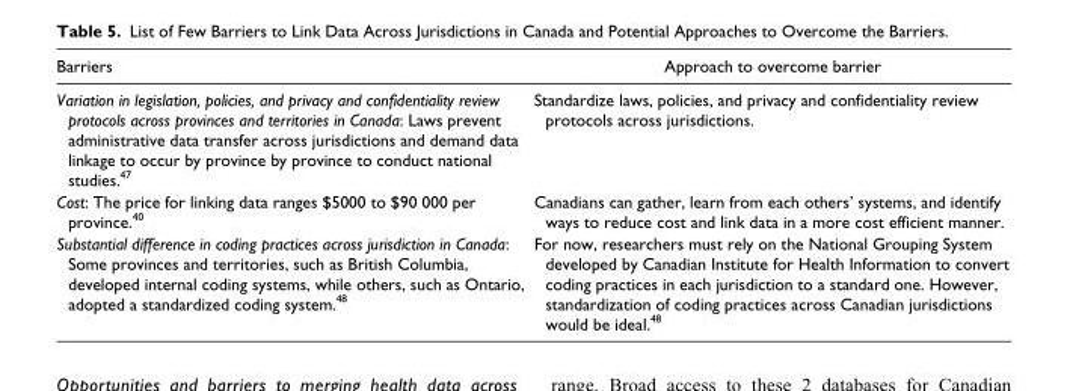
<table><thead><tr><td>Barriers</td><td>Approach to overcome barrier</td></tr></thead><tbody><tr><td>Variation in legislation, policies, and privacy and confidentiality review protocols across provinces and territories in Canada: Laws prevent administrative data transfer across jurisdictions and demand data linkage to occur by province by province to conduct national studies.<sup>47</sup></td><td>Standardize laws, policies, and privacy and confidentiality review protocols across jurisdictions.</td></tr><tr><td>Cost: The price for linking data ranges $5000 to $90 000 per province.<sup>40</sup></td><td>Canadians can gather, learn from each others’ systems, and identify ways to reduce cost and link data in a more cost efficient manner.</td></tr><tr><td>Substantial difference in coding practices across jurisdiction in Canada: Some provinces and territories, such as British Columbia, developed internal coding systems, while others, such as Ontario, adopted a standardized coding system.<sup>48</sup></td><td>For now, researchers must rely on the National Grouping System developed by Canadian Institute for Health Information to convert coding practices in each jurisdiction to a standard one. However, standardization of coding practices across Canadian jurisdictions would be ideal.<sup>48</sup></td></tr></tbody></table>